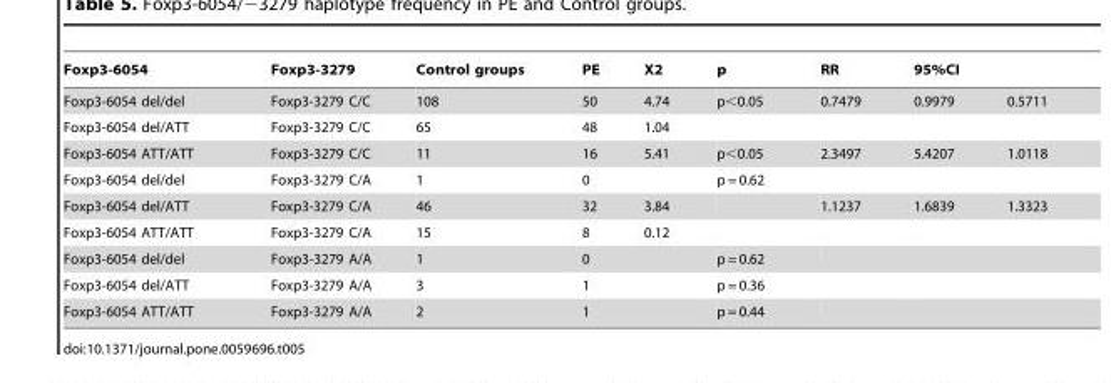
<table><thead><tr><td>Foxp3-6054</td><td>Foxp3-3279</td><td>Control groups</td><td>PE</td><td>X2</td><td>p</td><td>RR</td><td>95%CI</td><td></td></tr></thead><tbody><tr><td>Foxp3-6054 del/del</td><td>Foxp3-3279 C/C</td><td>108</td><td>50</td><td>4.74</td><td>p&lt;0.05</td><td>0.7479</td><td>0.9979</td><td>0.5711</td></tr><tr><td>Foxp3-6054 del/ATT</td><td>Foxp3-3279 C/C</td><td>65</td><td>48</td><td>1.04</td><td></td><td></td><td></td><td></td></tr><tr><td>Foxp3-6054 ATT/ATT</td><td>Foxp3-3279 C/C</td><td>11</td><td>16</td><td>5.41</td><td>p&lt;0.05</td><td>2.3497</td><td>5.4207</td><td>1.0118</td></tr><tr><td>Foxp3-6054 del/del</td><td>Foxp3-3279 C/A</td><td>1</td><td>0</td><td></td><td>p = 0.62</td><td></td><td></td><td></td></tr><tr><td>Foxp3-6054 del/ATT</td><td>Foxp3-3279 C/A</td><td>46</td><td>32</td><td>3.84</td><td></td><td>1.1237</td><td>1.6839</td><td>1.3323</td></tr><tr><td>Foxp3-6054 ATT/ATT</td><td>Foxp3-3279 C/A</td><td>15</td><td>8</td><td>0.12</td><td></td><td></td><td></td><td></td></tr><tr><td>Foxp3-6054 del/del</td><td>Foxp3-3279 A/A</td><td>1</td><td>0</td><td></td><td>p = 0.62</td><td></td><td></td><td></td></tr><tr><td>Foxp3-6054 del/ATT</td><td>Foxp3-3279 A/A</td><td>3</td><td>1</td><td></td><td>p = 0.36</td><td></td><td></td><td></td></tr><tr><td>Foxp3-6054 ATT/ATT</td><td>Foxp3-3279 A/A</td><td>2</td><td>1</td><td></td><td>p = 0.44</td><td></td><td></td><td></td></tr></tbody></table>